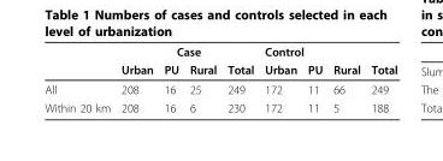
<table><thead><tr><td rowspan="2"></td><td colspan="4">Case</td><td colspan="4">Control</td></tr><tr><td>Urban</td><td>PU</td><td>Rural</td><td>Total</td><td>Urban</td><td>PU</td><td>Rural</td><td>Total</td></tr></thead><tbody><tr><td>All</td><td>208</td><td>16</td><td>25</td><td>249</td><td>172</td><td>11</td><td>66</td><td>249</td></tr><tr><td>Within 20 km</td><td>208</td><td>16</td><td>6</td><td>230</td><td>172</td><td>11</td><td>5</td><td>188</td></tr></tbody></table>